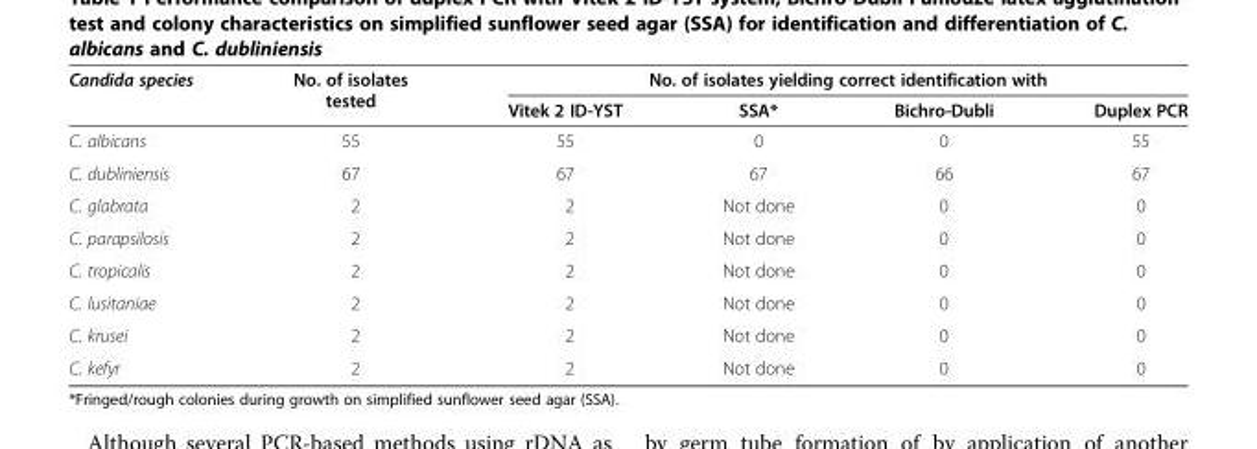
<table><thead><tr><td rowspan="2">Candida species</td><td rowspan="2">No. of isolates tested</td><td colspan="4">No. of isolates yielding correct identification with</td></tr><tr><td>Vitek 2 ID-YST</td><td>SSA*</td><td>Bichro-Dubli</td><td>Duplex PCR</td></tr></thead><tbody><tr><td>C. albicans</td><td>55</td><td>55</td><td>0</td><td>0</td><td>55</td></tr><tr><td>C. dubliniensis</td><td>67</td><td>67</td><td>67</td><td>66</td><td>67</td></tr><tr><td>C. glabrata</td><td>2</td><td>2</td><td>Not done</td><td>0</td><td>0</td></tr><tr><td>C. parapsilosis</td><td>2</td><td>2</td><td>Not done</td><td>0</td><td>0</td></tr><tr><td>C. tropicalis</td><td>2</td><td>2</td><td>Not done</td><td>0</td><td>0</td></tr><tr><td>C. lusitaniae</td><td>2</td><td>2</td><td>Not done</td><td>0</td><td>0</td></tr><tr><td>C. krusei</td><td>2</td><td>2</td><td>Not done</td><td>0</td><td>0</td></tr><tr><td>C. kefyr</td><td>2</td><td>2</td><td>Not done</td><td>0</td><td>0</td></tr></tbody></table>